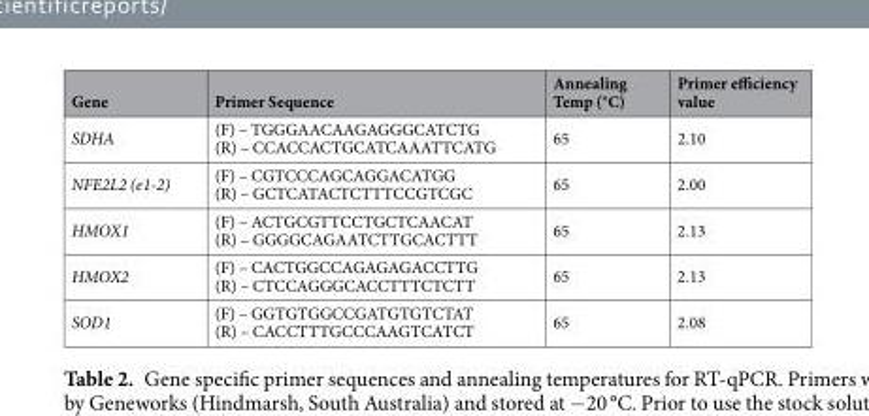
<table><thead><tr><td>Gene</td><td>Primer Sequence</td><td>Annealing Temp (°C)</td><td>Primer efficiency value</td></tr></thead><tbody><tr><td>SDHA</td><td>(F) – TGGGAACAAGAGGGCATCTG (R) – CCACCACTGCATCAAATTCATG</td><td>65</td><td>2.10</td></tr><tr><td>NFE2L2 (e1-2)</td><td>(F) – CGTCCCAGCAGGACATGG (R) – GCTCATACTCTTTCCGTCGC</td><td>65</td><td>2.00</td></tr><tr><td>HMOX1</td><td>(F) – ACTGCGTTCCTGCTCAACAT (R) – GGGGCAGAATCTTGCACTTT</td><td>65</td><td>2.13</td></tr><tr><td>HMOX2</td><td>(F) – CACTGGCCAGAGAGACCTTG (R) – CTCCAGGGCACCTTTCTCTT</td><td>65</td><td>2.13</td></tr><tr><td>SOD1</td><td>(F) – GGTGTGGCCGATGTGTCTAT (R) – CACCTTTGCCCAAGTCATCT</td><td>65</td><td>2.08</td></tr></tbody></table>